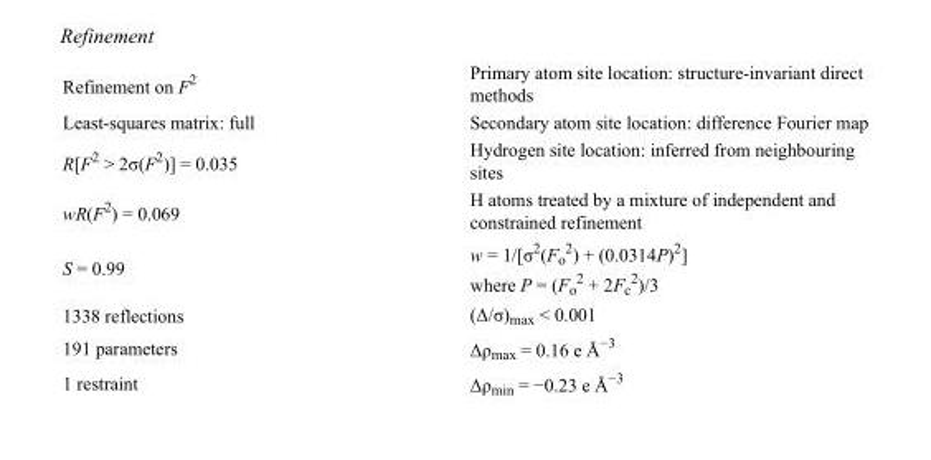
<table><tbody><tr><td>Refinement on F<sup>2</sup></td><td>Primary atom site location: structure-invariant direct methods</td></tr><tr><td>Least-squares matrix: full</td><td>Secondary atom site location: difference Fourier map</td></tr><tr><td>R[F<sup>2</sup> &gt; 2σ(F<sup>2</sup>)] = 0.035</td><td>Hydrogen site location: inferred from neighbouring sites</td></tr><tr><td>wR(F<sup>2</sup>) = 0.069</td><td>H atoms treated by a mixture of independent and constrained refinement</td></tr><tr><td>S = 0.99</td><td>w = 1/[σ<sup>2</sup>(F<sub>o</sub> <sup>2</sup>) + (0.0314P)<sup>2</sup>] where P = (F<sub>o</sub> <sup>2</sup> + 2F<sub>c</sub> <sup>2</sup>)/3</td></tr><tr><td>1338 reflections</td><td>(Δ/σ)<sub>max</sub> &lt; 0.001</td></tr><tr><td>191 parameters</td><td>Δρ<sub>max</sub> = 0.16 e Å<sup>−3</sup></td></tr><tr><td>1 restraint</td><td>Δρ<sub>min</sub> = −0.23 e Å<sup>−3</sup></td></tr></tbody></table>